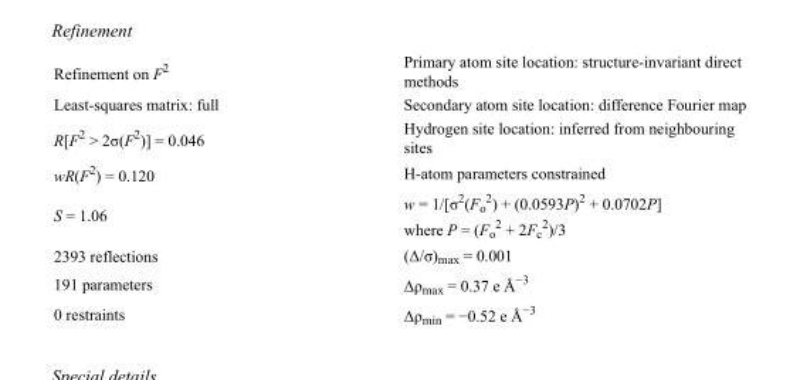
<table><tbody><tr><td>Refinement on F<sup>2</sup></td><td>Primary atom site location: structure-invariant direct methods</td></tr><tr><td>Least-squares matrix: full</td><td>Secondary atom site location: difference Fourier map</td></tr><tr><td>R[F<sup>2</sup> &gt; 2σ(F<sup>2</sup>)] = 0.046</td><td>Hydrogen site location: inferred from neighbouring sites</td></tr><tr><td>wR(F<sup>2</sup>) = 0.120</td><td>H-atom parameters constrained</td></tr><tr><td>S = 1.06</td><td>w = 1/[σ<sup>2</sup>(F<sub>o</sub> <sup>2</sup>) + (0.0593P)<sup>2</sup> + 0.0702P] where P = (F<sub>o</sub> <sup>2</sup> + 2F<sub>c</sub> <sup>2</sup>)/3</td></tr><tr><td>2393 reflections</td><td>(Δ/σ)<sub>max</sub> = 0.001</td></tr><tr><td>191 parameters</td><td>Δρ<sub>max</sub> = 0.37 e Å<sup>−3</sup></td></tr><tr><td>0 restraints</td><td>Δρ<sub>min</sub> = −0.52 e Å<sup>−3</sup></td></tr></tbody></table>